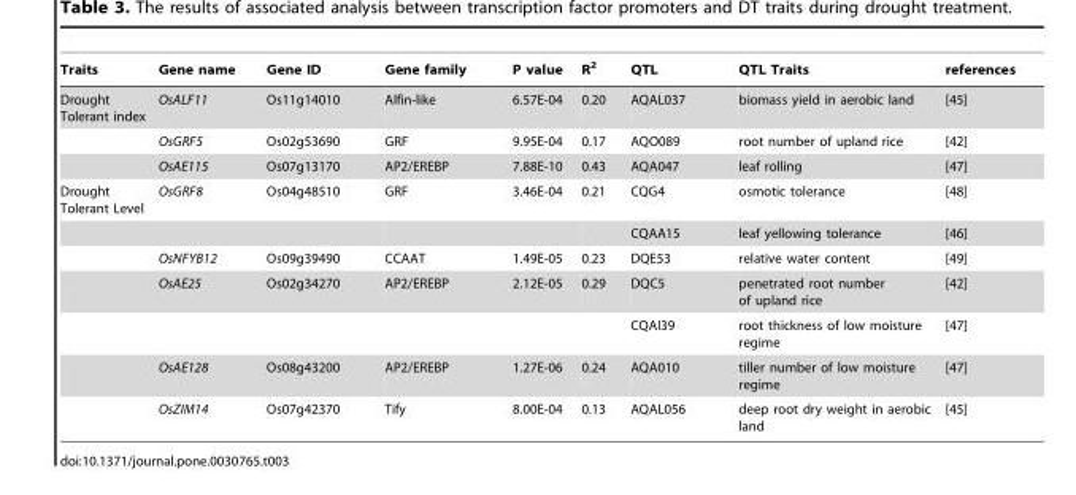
<table><thead><tr><td>Traits</td><td>Gene name</td><td>Gene ID</td><td>Gene family</td><td>P value</td><td>R<sup>2</sup></td><td>QTL</td><td>QTL Traits</td><td>references</td></tr></thead><tbody><tr><td rowspan="3">Drought Tolerant index</td><td>OsALF11</td><td>Os11g14010</td><td>Alfin-like</td><td>6.57E-04</td><td>0.20</td><td>AQAL037</td><td>biomass yield in aerobic land</td><td>[45]</td></tr><tr><td>OsGRF5</td><td>Os02g53690</td><td>GRF</td><td>9.95E-04</td><td>0.17</td><td>AQO089</td><td>root number of upland rice</td><td>[42]</td></tr><tr><td>OsAE115</td><td>Os07g13170</td><td>AP2/EREBP</td><td>7.88E-10</td><td>0.43</td><td>AQA047</td><td>leaf rolling</td><td>[47]</td></tr><tr><td rowspan="7">Drought Tolerant Level</td><td>OsGRF8</td><td>Os04g48510</td><td>GRF</td><td>3.46E-04</td><td>0.21</td><td>CQG4</td><td>osmotic tolerance</td><td>[48]</td></tr><tr><td></td><td></td><td></td><td></td><td></td><td>CQAA15</td><td>leaf yellowing tolerance</td><td>[46]</td></tr><tr><td>OsNFYB12</td><td>Os09g39490</td><td>CCAAT</td><td>1.49E-05</td><td>0.23</td><td>DQE53</td><td>relative water content</td><td>[49]</td></tr><tr><td>OsAE25</td><td>Os02g34270</td><td>AP2/EREBP</td><td>2.12E-05</td><td>0.29</td><td>DQC5</td><td>penetrated root number of upland rice</td><td>[42]</td></tr><tr><td></td><td></td><td></td><td></td><td></td><td>CQAI39</td><td>root thickness of low moisture regime</td><td>[47]</td></tr><tr><td>OsAE128</td><td>Os08g43200</td><td>AP2/EREBP</td><td>1.27E-06</td><td>0.24</td><td>AQA010</td><td>tiller number of low moisture regime</td><td>[47]</td></tr><tr><td>OsZIM14</td><td>Os07g42370</td><td>Tify</td><td>8.00E-04</td><td>0.13</td><td>AQAL056</td><td>deep root dry weight in aerobic land</td><td>[45]</td></tr></tbody></table>